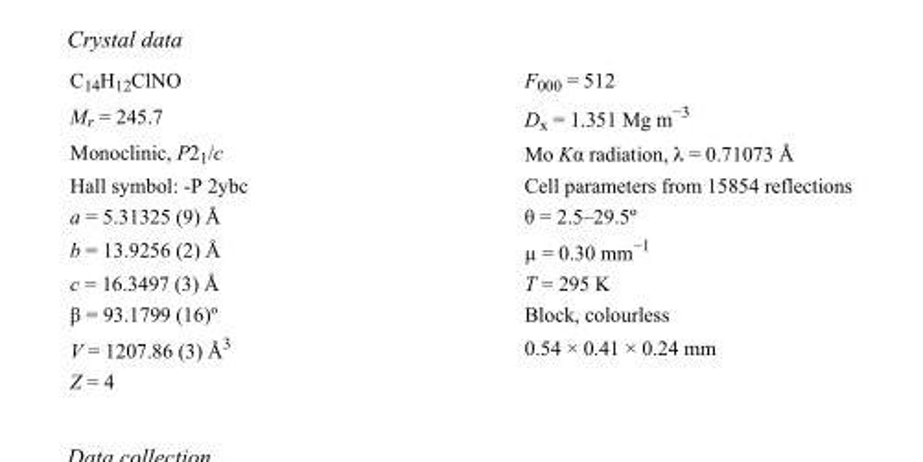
<table><tbody><tr><td>C<sub>14</sub>H<sub>12</sub>ClNO</td><td>F000 = 512</td></tr><tr><td>M<sub>r</sub> = 245.7</td><td>D<sub>x</sub> = 1.351 Mg m<sup>−3</sup></td></tr><tr><td>Monoclinic, P2<sub>1</sub>/c</td><td>Mo Kα radiation, λ = 0.71073 Å</td></tr><tr><td>Hall symbol: -P 2ybc</td><td>Cell parameters from 15854 reflections</td></tr><tr><td>a = 5.31325 (9) Å</td><td>θ = 2.5–29.5º</td></tr><tr><td>b = 13.9256 (2) Å</td><td>µ = 0.30 mm<sup>−1</sup></td></tr><tr><td>c = 16.3497 (3) Å</td><td>T = 295 K</td></tr><tr><td>β = 93.1799 (16)º</td><td>Block, colourless</td></tr><tr><td>V = 1207.86 (3) Å<sup>3</sup></td><td>0.54 × 0.41 × 0.24 mm</td></tr><tr><td>Z = 4</td><td></td></tr></tbody></table>